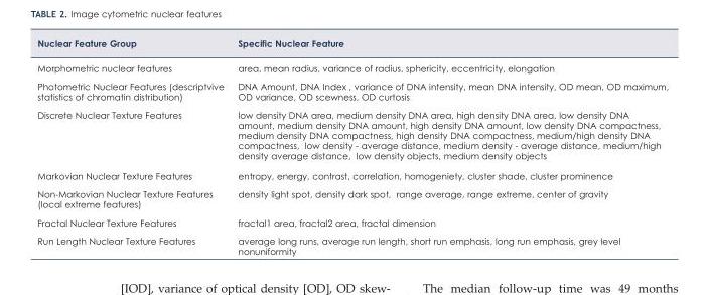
<table><thead><tr><td>Nuclear Feature Group</td><td>Specific Nuclear Feature</td></tr></thead><tbody><tr><td>Morphometric nuclear features</td><td>area, mean radius, variance of radius, sphericity, eccentricity, elongation</td></tr><tr><td>Photometric Nuclear Features (descriptvive statistics of chromatin distribution)</td><td>DNA Amount, DNA Index , variance of DNA intensity, mean DNA intensity, OD mean, OD maximum, OD variance, OD scewness, OD curtosis</td></tr><tr><td>Discrete Nuclear Texture Features</td><td>low density DNA area, medium density DNA area, high density DNA area, low density DNA amount, medium density DNA amount, high density DNA amount, low density DNA compactness, medium density DNA compactness, high density DNA compactness, medium/high density DNA compactness, low density - average distance, medium density - average distance, medium/high density average distance, low density objects, medium density objects</td></tr><tr><td>Markovian Nuclear Texture Features</td><td>entropy, energy, contrast, correlation, homogeniety, cluster shade, cluster prominence</td></tr><tr><td>Non-Markovian Nuclear Texture Features (local extreme features)</td><td>density light spot, density dark spot, range average, range extreme, center of gravity</td></tr><tr><td>Fractal Nuclear Texture Features</td><td>fractal1 area, fractal2 area, fractal dimension</td></tr><tr><td>Run Length Nuclear Texture Features</td><td>average long runs, average run length, short run emphasis, long run emphasis, grey level nonuniformity</td></tr></tbody></table>